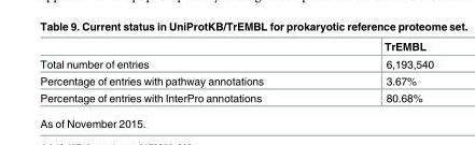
<table><thead><tr><td></td><td>TrEMBL</td></tr></thead><tbody><tr><td>Total number of entries</td><td>6,193,540</td></tr><tr><td>Percentage of entries with pathway annotations</td><td>3.67%</td></tr><tr><td>Percentage of entries with InterPro annotations</td><td>80.68%</td></tr></tbody></table>